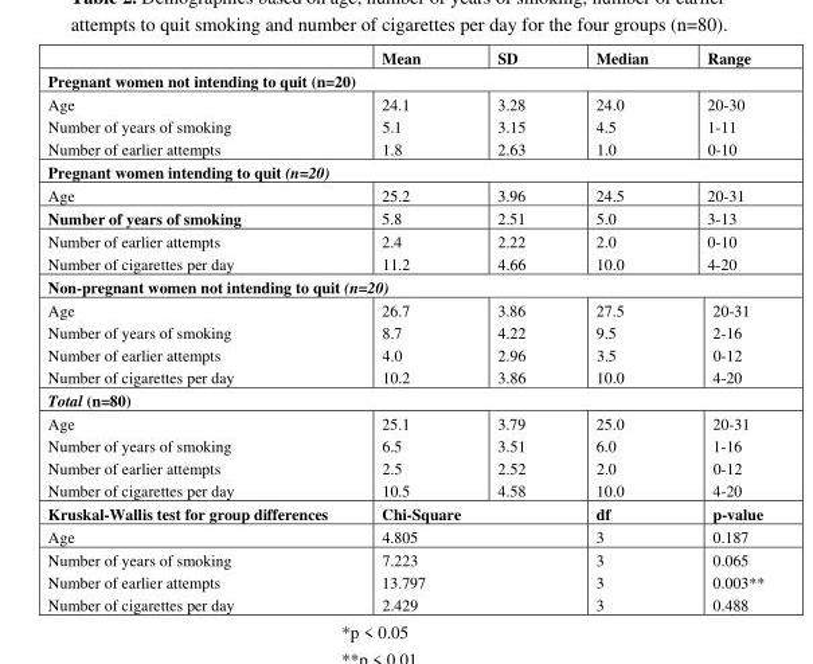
<table><thead><tr><td></td><td>Mean</td><td>SD</td><td>Median</td><td>Range</td></tr></thead><tbody><tr><td colspan="5">Pregnant women not intending to quit (n=20)</td></tr><tr><td>Age</td><td>24.1</td><td>3.28</td><td>24.0</td><td>20-30</td></tr><tr><td>Number of years of smoking</td><td>5.1</td><td>3.15</td><td>4.5</td><td>1-11</td></tr><tr><td>Number of earlier attempts</td><td>1.8</td><td>2.63</td><td>1.0</td><td>0-10</td></tr><tr><td colspan="5">Pregnant women intending to quit (n=20)</td></tr><tr><td>Age</td><td>25.2</td><td>3.96</td><td>24.5</td><td>20-31</td></tr><tr><td>Number of years of smoking</td><td>5.8</td><td>2.51</td><td>5.0</td><td>3-13</td></tr><tr><td>Number of earlier attempts</td><td>2.4</td><td>2.22</td><td>2.0</td><td>0-10</td></tr><tr><td>Number of cigarettes per day</td><td>11.2</td><td>4.66</td><td>10.0</td><td>4-20</td></tr><tr><td colspan="5">Non-pregnant women not intending to quit (n=20)</td></tr><tr><td>Age</td><td>26.7</td><td>3.86</td><td>27.5</td><td>20-31</td></tr><tr><td>Number of years of smoking</td><td>8.7</td><td>4.22</td><td>9.5</td><td>2-16</td></tr><tr><td>Number of earlier attempts</td><td>4.0</td><td>2.96</td><td>3.5</td><td>0-12</td></tr><tr><td>Number of cigarettes per day</td><td>10.2</td><td>3.86</td><td>10.0</td><td>4-20</td></tr><tr><td colspan="5">Total (n=80)</td></tr><tr><td>Age</td><td>25.1</td><td>3.79</td><td>25.0</td><td>20-31</td></tr><tr><td>Number of years of smoking</td><td>6.5</td><td>3.51</td><td>6.0</td><td>1-16</td></tr><tr><td>Number of earlier attempts</td><td>2.5</td><td>2.52</td><td>2.0</td><td>0-12</td></tr><tr><td>Number of cigarettes per day</td><td>10.5</td><td>4.58</td><td>10.0</td><td>4-20</td></tr><tr><td>Kruskal-Wallis test for group differences</td><td colspan="2">Chi-Square</td><td>df</td><td>p-value</td></tr><tr><td>Age</td><td colspan="2">4.805</td><td>3</td><td>0.187</td></tr><tr><td>Number of years of smoking</td><td colspan="2">7.223</td><td>3</td><td>0.065</td></tr><tr><td>Number of earlier attempts</td><td colspan="2">13.797</td><td>3</td><td>0.003**</td></tr><tr><td>Number of cigarettes per day</td><td colspan="2">2.429</td><td>3</td><td>0.488</td></tr></tbody></table>